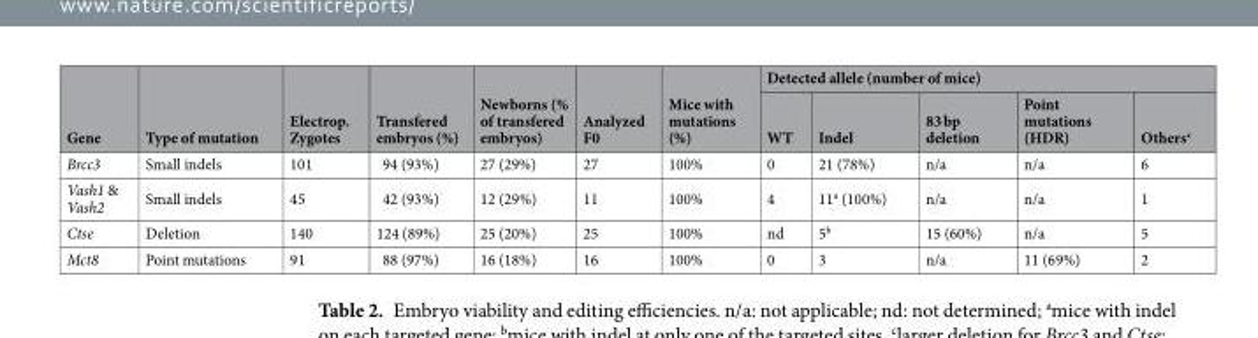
<table><thead><tr><td rowspan="2">Gene</td><td rowspan="2">Type of mutation</td><td rowspan="2">Electrop. Zygotes</td><td rowspan="2">Transfered embryos (%)</td><td rowspan="2">Newborns (% of transfered embryos)</td><td rowspan="2">Analyzed F0</td><td rowspan="2">Mice with mutations (%)</td><td colspan="5">Detected allele (number of mice)</td></tr><tr><td>WT</td><td>Indel</td><td>83 bp deletion</td><td>Point mutations (HDR)</td><td>Others<sup>c</sup></td></tr></thead><tbody><tr><td>Brcc3</td><td>Small indels</td><td>101</td><td>94 (93%)</td><td>27 (29%)</td><td>27</td><td>100%</td><td>0</td><td>21 (78%)</td><td>n/a</td><td>n/a</td><td>6</td></tr><tr><td>Vash1 &amp; Vash2</td><td>Small indels</td><td>45</td><td>42 (93%)</td><td>12 (29%)</td><td>11</td><td>100%</td><td>4</td><td>11<sup>a</sup> (100%)</td><td>n/a</td><td>n/a</td><td>1</td></tr><tr><td>Ctse</td><td>Deletion</td><td>140</td><td>124 (89%)</td><td>25 (20%)</td><td>25</td><td>100%</td><td>nd</td><td>5<sup>b</sup></td><td>15 (60%)</td><td>n/a</td><td>5</td></tr><tr><td>Mct8</td><td>Point mutations</td><td>91</td><td>88 (97%)</td><td>16 (18%)</td><td>16</td><td>100%</td><td>0</td><td>3</td><td>n/a</td><td>11 (69%)</td><td>2</td></tr></tbody></table>